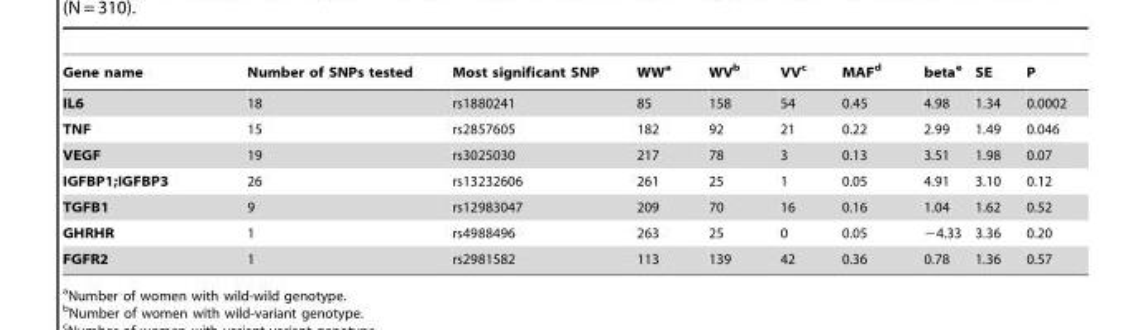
<table><thead><tr><td>Gene name</td><td>Number of SNPs tested</td><td>Most significant SNP</td><td>WW<sup>a</sup></td><td>WV<sup>b</sup></td><td>VV<sup>c</sup></td><td>MAF<sup>d</sup></td><td>beta<sup>e</sup></td><td>SE</td><td>P</td></tr></thead><tbody><tr><td>IL6</td><td>18</td><td>rs1880241</td><td>85</td><td>158</td><td>54</td><td>0.45</td><td>4.98</td><td>1.34</td><td>0.0002</td></tr><tr><td>TNF</td><td>15</td><td>rs2857605</td><td>182</td><td>92</td><td>21</td><td>0.22</td><td>2.99</td><td>1.49</td><td>0.046</td></tr><tr><td>VEGF</td><td>19</td><td>rs3025030</td><td>217</td><td>78</td><td>3</td><td>0.13</td><td>3.51</td><td>1.98</td><td>0.07</td></tr><tr><td>IGFBP1;IGFBP3</td><td>26</td><td>rs13232606</td><td>261</td><td>25</td><td>1</td><td>0.05</td><td>4.91</td><td>3.10</td><td>0.12</td></tr><tr><td>TGFB1</td><td>9</td><td>rs12983047</td><td>209</td><td>70</td><td>16</td><td>0.16</td><td>1.04</td><td>1.62</td><td>0.52</td></tr><tr><td>GHRHR</td><td>1</td><td>rs4988496</td><td>263</td><td>25</td><td>0</td><td>0.05</td><td>−4.33</td><td>3.36</td><td>0.20</td></tr><tr><td>FGFR2</td><td>1</td><td>rs2981582</td><td>113</td><td>139</td><td>42</td><td>0.36</td><td>0.78</td><td>1.36</td><td>0.57</td></tr></tbody></table>